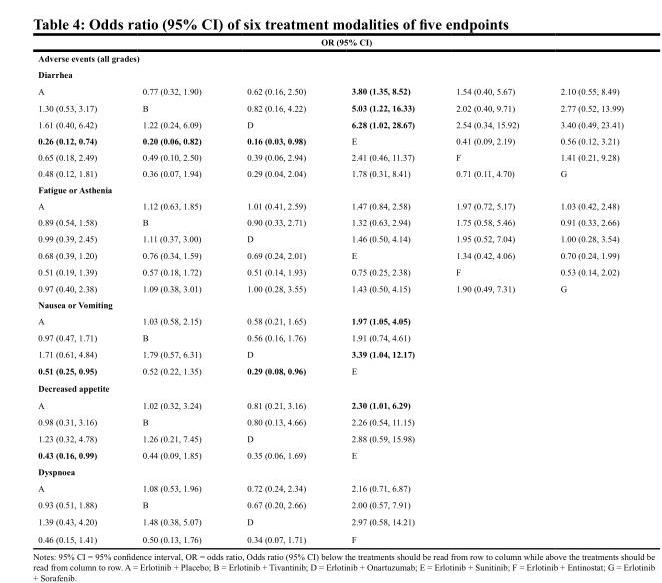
<table><thead><tr><td rowspan="3" colspan="6">OR (95% CI) Adverse events (all grades) Diarrhea</td></tr><tr></tr><tr></tr><tr><td>A</td><td>0.77 (0.32, 1.90)</td><td>0.62 (0.16, 2.50)</td><td>3.80 (1.35, 8.52)</td><td>1.54 (0.40, 5.67)</td><td>2.10 (0.55, 8.49)</td></tr></thead><tbody><tr><td>1.30 (0.53, 3.17)</td><td>B</td><td>0.82 (0.16, 4.22)</td><td>5.03 (1.22, 16.33)</td><td>2.02 (0.40, 9.71)</td><td>2.77 (0.52, 13.99)</td></tr><tr><td>1.61 (0.40, 6.42)</td><td>1.22 (0.24, 6.09)</td><td>D</td><td>6.28 (1.02, 28.67)</td><td>2.54 (0.34, 15.92)</td><td>3.40 (0.49, 23.41)</td></tr><tr><td>0.26 (0.12, 0.74)</td><td>0.20 (0.06, 0.82)</td><td>0.16 (0.03, 0.98)</td><td>E</td><td>0.41 (0.09, 2.19)</td><td>0.56 (0.12, 3.21)</td></tr><tr><td>0.65 (0.18, 2.49)</td><td>0.49 (0.10, 2.50)</td><td>0.39 (0.06, 2.94)</td><td>2.41 (0.46, 11.37)</td><td>F</td><td>1.41 (0.21, 9.28)</td></tr><tr><td>0.48 (0.12, 1.81)</td><td>0.36 (0.07, 1.94)</td><td>0.29 (0.04, 2.04)</td><td>1.78 (0.31, 8.41)</td><td>0.71 (0.11, 4.70)</td><td>G</td></tr><tr><td colspan="6">Fatigue or Asthenia</td></tr><tr><td>A</td><td>1.12 (0.63, 1.85)</td><td>1.01 (0.41, 2.59)</td><td>1.47 (0.84, 2.58)</td><td>1.97 (0.72, 5.17)</td><td>1.03 (0.42, 2.48)</td></tr><tr><td>0.89 (0.54, 1.58)</td><td>B</td><td>0.90 (0.33, 2.71)</td><td>1.32 (0.63, 2.94)</td><td>1.75 (0.58, 5.46)</td><td>0.91 (0.33, 2.66)</td></tr><tr><td>0.99 (0.39, 2.45)</td><td>1.11 (0.37, 3.00)</td><td>D</td><td>1.46 (0.50, 4.14)</td><td>1.95 (0.52, 7.04)</td><td>1.00 (0.28, 3.54)</td></tr><tr><td>0.68 (0.39, 1.20)</td><td>0.76 (0.34, 1.59)</td><td>0.69 (0.24, 2.01)</td><td>E</td><td>1.34 (0.42, 4.06)</td><td>0.70 (0.24, 1.99)</td></tr><tr><td>0.51 (0.19, 1.39)</td><td>0.57 (0.18, 1.72)</td><td>0.51 (0.14, 1.93)</td><td>0.75 (0.25, 2.38)</td><td>F</td><td>0.53 (0.14, 2.02)</td></tr><tr><td>0.97 (0.40, 2.38)</td><td>1.09 (0.38, 3.01)</td><td>1.00 (0.28, 3.55)</td><td>1.43 (0.50, 4.15)</td><td>1.90 (0.49, 7.31)</td><td>G</td></tr><tr><td colspan="6">Nausea or Vomiting</td></tr><tr><td>A</td><td>1.03 (0.58, 2.15)</td><td>0.58 (0.21, 1.65)</td><td>1.97 (1.05, 4.05)</td><td></td><td></td></tr><tr><td>0.97 (0.47, 1.71)</td><td>B</td><td>0.56 (0.16, 1.76)</td><td>1.91 (0.74, 4.61)</td><td></td><td></td></tr><tr><td>1.71 (0.61, 4.84)</td><td>1.79 (0.57, 6.31)</td><td>D</td><td>3.39 (1.04, 12.17)</td><td></td><td></td></tr><tr><td>0.51 (0.25, 0.95)</td><td>0.52 (0.22, 1.35)</td><td>0.29 (0.08, 0.96)</td><td>E</td><td></td><td></td></tr><tr><td colspan="6">Decreased appetite</td></tr><tr><td>A</td><td>1.02 (0.32, 3.24)</td><td>0.81 (0.21, 3.16)</td><td>2.30 (1.01, 6.29)</td><td></td><td></td></tr><tr><td>0.98 (0.31, 3.16)</td><td>B</td><td>0.80 (0.13, 4.66)</td><td>2.26 (0.54, 11.15)</td><td></td><td></td></tr><tr><td>1.23 (0.32, 4.78)</td><td>1.26 (0.21, 7.45)</td><td>D</td><td>2.88 (0.59, 15.98)</td><td></td><td></td></tr><tr><td>0.43 (0.16, 0.99)</td><td>0.44 (0.09, 1.85)</td><td>0.35 (0.06, 1.69)</td><td>E</td><td></td><td></td></tr><tr><td colspan="6">Dyspnoea</td></tr><tr><td>A</td><td>1.08 (0.53, 1.96)</td><td>0.72 (0.24, 2.34)</td><td>2.16 (0.71, 6.87)</td><td></td><td></td></tr><tr><td>0.93 (0.51, 1.88)</td><td>B</td><td>0.67 (0.20, 2.66)</td><td>2.00 (0.57, 7.91)</td><td></td><td></td></tr><tr><td>1.39 (0.43, 4.20)</td><td>1.48 (0.38, 5.07)</td><td>D</td><td>2.97 (0.58, 14.21)</td><td></td><td></td></tr><tr><td>0.46 (0.15, 1.41)</td><td>0.50 (0.13, 1.76)</td><td>0.34 (0.07, 1.71)</td><td>F</td><td></td><td></td></tr></tbody></table>